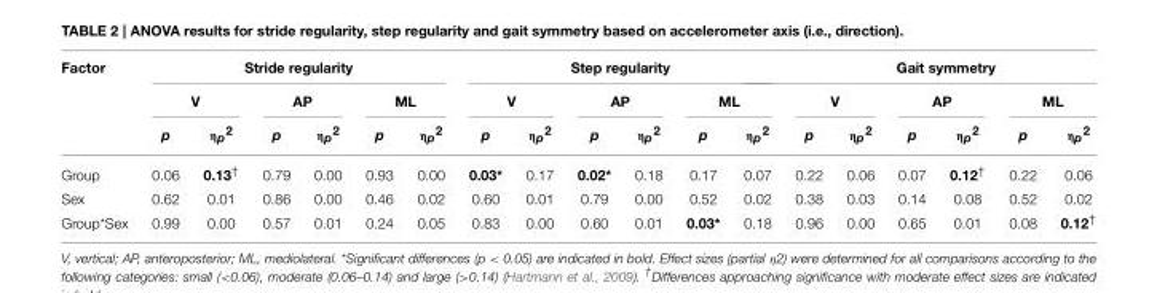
<table><thead><tr><td rowspan="3">Factor</td><td colspan="6">Stride regularity</td><td colspan="6">Step regularity</td><td colspan="6">Gait symmetry</td></tr><tr><td colspan="2">V</td><td colspan="2">AP</td><td colspan="2">ML</td><td colspan="2">V</td><td colspan="2">AP</td><td colspan="2">ML</td><td colspan="2">V</td><td colspan="2">AP</td><td colspan="2">ML</td></tr><tr><td>p</td><td>η<sub>p</sub><sup>2</sup></td><td>p</td><td>η<sub>p</sub><sup>2</sup></td><td>p</td><td>η<sub>p</sub><sup>2</sup></td><td>p</td><td>η<sub>p</sub><sup>2</sup></td><td>p</td><td>η<sub>p</sub><sup>2</sup></td><td>p</td><td>η<sub>p</sub><sup>2</sup></td><td>p</td><td>η<sub>p</sub><sup>2</sup></td><td>p</td><td>η<sub>p</sub><sup>2</sup></td><td>p</td><td>η<sub>p</sub><sup>2</sup></td></tr></thead><tbody><tr><td>Group</td><td>0.06</td><td>0.13<sup>†</sup></td><td>0.79</td><td>0.00</td><td>0.93</td><td>0.00</td><td>0.03*</td><td>0.17</td><td>0.02*</td><td>0.18</td><td>0.17</td><td>0.07</td><td>0.22</td><td>0.06</td><td>0.07</td><td>0.12<sup>†</sup></td><td>0.22</td><td>0.06</td></tr><tr><td>Sex</td><td>0.62</td><td>0.01</td><td>0.86</td><td>0.00</td><td>0.46</td><td>0.02</td><td>0.60</td><td>0.01</td><td>0.79</td><td>0.00</td><td>0.52</td><td>0.02</td><td>0.38</td><td>0.03</td><td>0.14</td><td>0.08</td><td>0.52</td><td>0.02</td></tr><tr><td>Group*Sex</td><td>0.99</td><td>0.00</td><td>0.57</td><td>0.01</td><td>0.24</td><td>0.05</td><td>0.83</td><td>0.00</td><td>0.60</td><td>0.01</td><td>0.03*</td><td>0.18</td><td>0.96</td><td>0.00</td><td>0.65</td><td>0.01</td><td>0.08</td><td>0.12<sup>†</sup></td></tr></tbody></table>